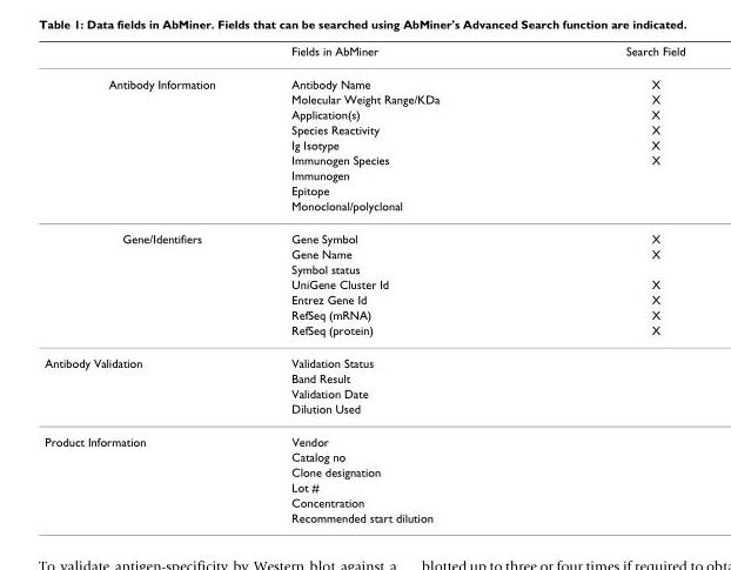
<table><thead><tr><td></td><td>Fields in AbMiner</td><td>Search Field</td></tr></thead><tbody><tr><td rowspan="9">Antibody Information</td><td>Antibody Name</td><td>X</td></tr><tr><td>Molecular Weight Range/KDa</td><td>X</td></tr><tr><td>Application(s)</td><td>X</td></tr><tr><td>Species Reactivity</td><td>X</td></tr><tr><td>Ig Isotype</td><td>X</td></tr><tr><td>Immunogen Species</td><td>X</td></tr><tr><td>Immunogen</td><td></td></tr><tr><td>Epitope</td><td></td></tr><tr><td>Monoclonal/polyclonal</td><td></td></tr><tr><td rowspan="7">Gene/Identifiers</td><td>Gene Symbol</td><td>X</td></tr><tr><td>Gene Name</td><td>X</td></tr><tr><td>Symbol status</td><td></td></tr><tr><td>UniGene Cluster Id</td><td>X</td></tr><tr><td>Entrez Gene Id</td><td>X</td></tr><tr><td>RefSeq (mRNA)</td><td>X</td></tr><tr><td>RefSeq (protein)</td><td>X</td></tr><tr><td rowspan="4">Antibody Validation</td><td>Validation Status</td><td></td></tr><tr><td>Band Result</td><td></td></tr><tr><td>Validation Date</td><td></td></tr><tr><td>Dilution Used</td><td></td></tr><tr><td rowspan="6">Product Information</td><td>Vendor</td><td></td></tr><tr><td>Catalog no</td><td></td></tr><tr><td>Clone designation</td><td></td></tr><tr><td>Lot #</td><td></td></tr><tr><td>Concentration</td><td></td></tr><tr><td>Recommended start dilution</td><td></td></tr></tbody></table>